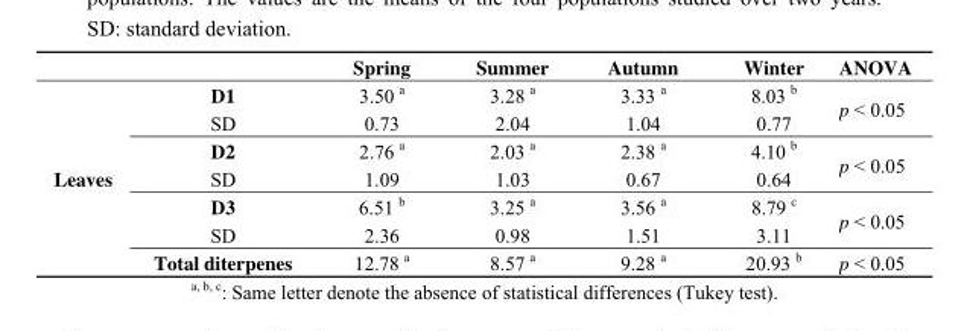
<table><thead><tr><td></td><td></td><td>Spring</td><td>Summer</td><td>Autumn</td><td>Winter</td><td>ANOVA</td></tr></thead><tbody><tr><td rowspan="7">Leaves</td><td>D1</td><td>3.50 <sup>a</sup></td><td>3.28 <sup>a</sup></td><td>3.33 <sup>a</sup></td><td>8.03 <sup>b</sup></td><td rowspan="2">p &lt; 0.05</td></tr><tr><td>SD</td><td>0.73</td><td>2.04</td><td>1.04</td><td>0.77</td></tr><tr><td>D2</td><td>2.76 <sup>a</sup></td><td>2.03 <sup>a</sup></td><td>2.38 <sup>a</sup></td><td>4.10 <sup>b</sup></td><td rowspan="2">p &lt; 0.05</td></tr><tr><td>SD</td><td>1.09</td><td>1.03</td><td>0.67</td><td>0.64</td></tr><tr><td>D3</td><td>6.51 <sup>b</sup></td><td>3.25 <sup>a</sup></td><td>3.56 <sup>a</sup></td><td>8.79 <sup>c</sup></td><td rowspan="2">p &lt; 0.05</td></tr><tr><td>SD</td><td>2.36</td><td>0.98</td><td>1.51</td><td>3.11</td></tr><tr><td>Total diterpenes</td><td>12.78 <sup>a</sup></td><td>8.57 <sup>a</sup></td><td>9.28 <sup>a</sup></td><td>20.93 <sup>b</sup></td><td>p &lt; 0.05</td></tr></tbody></table>